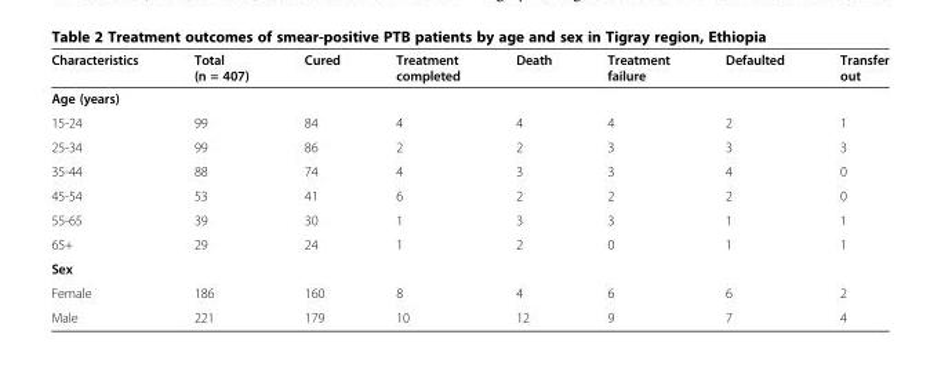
<table><thead><tr><td>Characteristics</td><td>Total (n = 407)</td><td>Cured</td><td>Treatment completed</td><td>Death</td><td>Treatment failure</td><td>Defaulted</td><td>Transfer out</td></tr></thead><tbody><tr><td colspan="8">Age (years)</td></tr><tr><td>15-24</td><td>99</td><td>84</td><td>4</td><td>4</td><td>4</td><td>2</td><td>1</td></tr><tr><td>25-34</td><td>99</td><td>86</td><td>2</td><td>2</td><td>3</td><td>3</td><td>3</td></tr><tr><td>35-44</td><td>88</td><td>74</td><td>4</td><td>3</td><td>3</td><td>4</td><td>0</td></tr><tr><td>45-54</td><td>53</td><td>41</td><td>6</td><td>2</td><td>2</td><td>2</td><td>0</td></tr><tr><td>55-65</td><td>39</td><td>30</td><td>1</td><td>3</td><td>3</td><td>1</td><td>1</td></tr><tr><td>65+</td><td>29</td><td>24</td><td>1</td><td>2</td><td>0</td><td>1</td><td>1</td></tr><tr><td colspan="8">Sex</td></tr><tr><td>Female</td><td>186</td><td>160</td><td>8</td><td>4</td><td>6</td><td>6</td><td>2</td></tr><tr><td>Male</td><td>221</td><td>179</td><td>10</td><td>12</td><td>9</td><td>7</td><td>4</td></tr></tbody></table>